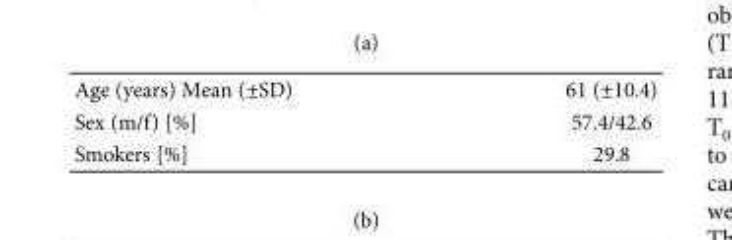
<table><tbody><tr><td>Age (years) Mean (±SD)</td><td>61 (±10.4)</td></tr><tr><td>Sex (m/f) [%]</td><td>57.4/42.6</td></tr><tr><td>Smokers [%]</td><td>29.8</td></tr></tbody></table>